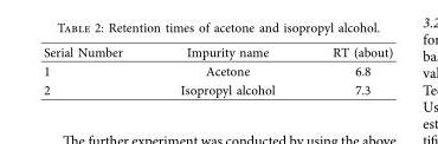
<table><thead><tr><td>Serial Number</td><td>Impurity name</td><td>RT (about)</td></tr></thead><tbody><tr><td>1</td><td>Acetone</td><td>6.8</td></tr><tr><td>2</td><td>Isopropyl alcohol</td><td>7.3</td></tr></tbody></table>